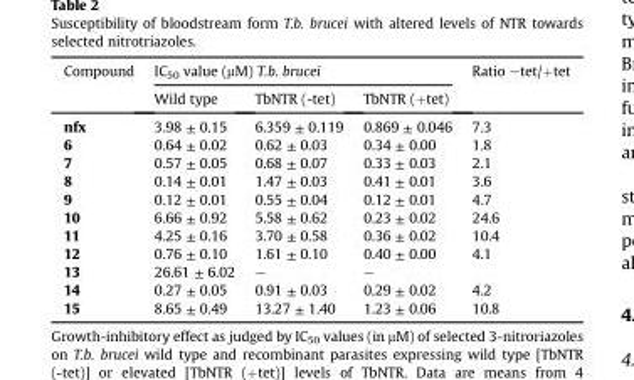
<table><thead><tr><td rowspan="2">Compound</td><td colspan="3">IC<sub>50</sub> value (μM) T.b. brucei</td><td rowspan="2">Ratio –tet/+tet</td></tr><tr><td>Wild type</td><td>TbNTR (-tet)</td><td>TbNTR (+tet)</td></tr></thead><tbody><tr><td>nfx</td><td>3.98 ± 0.15</td><td>6.359 ± 0.119</td><td>0.869 ± 0.046</td><td>7.3</td></tr><tr><td>6</td><td>0.64 ± 0.02</td><td>0.62 ± 0.03</td><td>0.34 ± 0.00</td><td>1.8</td></tr><tr><td>7</td><td>0.57 ± 0.05</td><td>0.68 ± 0.07</td><td>0.33 ± 0.03</td><td>2.1</td></tr><tr><td>8</td><td>0.14 ± 0.01</td><td>1.47 ± 0.03</td><td>0.41 ± 0.01</td><td>3.6</td></tr><tr><td>9</td><td>0.12 ± 0.01</td><td>0.55 ± 0.04</td><td>0.12 ± 0.01</td><td>4.7</td></tr><tr><td>10</td><td>6.66 ± 0.92</td><td>5.58 ± 0.62</td><td>0.23 ± 0.02</td><td>24.6</td></tr><tr><td>11</td><td>4.25 ± 0.16</td><td>3.70 ± 0.58</td><td>0.36 ± 0.02</td><td>10.4</td></tr><tr><td>12</td><td>0.76 ± 0.10</td><td>1.61 ± 0.10</td><td>0.40 ± 0.00</td><td>4.1</td></tr><tr><td>13</td><td>26.61 ± 6.02</td><td>–</td><td>–</td><td></td></tr><tr><td>14</td><td>0.27 ± 0.05</td><td>0.91 ± 0.03</td><td>0.29 ± 0.02</td><td>4.2</td></tr><tr><td>15</td><td>8.65 ± 0.49</td><td>13.27 ± 1.40</td><td>1.23 ± 0.06</td><td>10.8</td></tr></tbody></table>